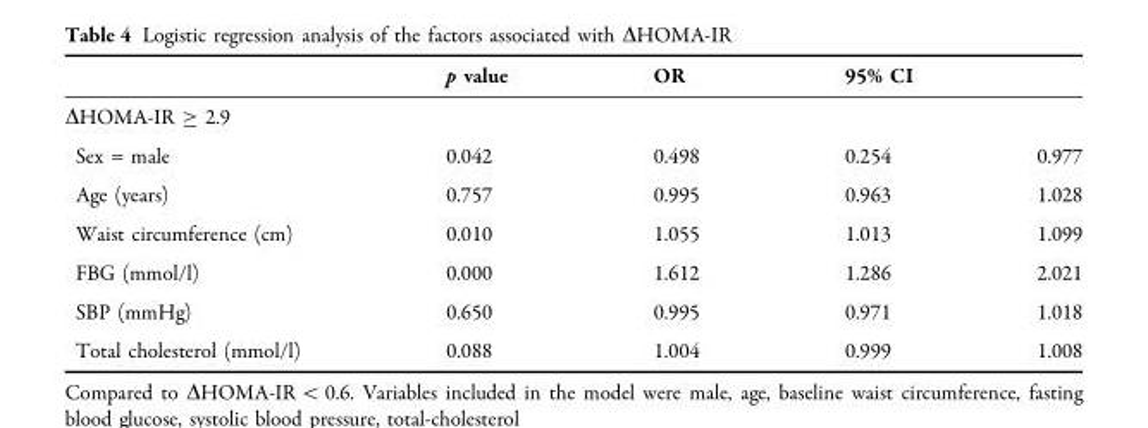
<table><thead><tr><td></td><td>p value</td><td>OR</td><td colspan="2">95% CI</td></tr><tr><td colspan="5">∆HOMA-IR ≥ 2.9</td></tr><tr><td>Sex = male</td><td>0.042</td><td>0.498</td><td>0.254</td><td>0.977</td></tr></thead><tbody><tr><td>Age (years)</td><td>0.757</td><td>0.995</td><td>0.963</td><td>1.028</td></tr><tr><td>Waist circumference (cm)</td><td>0.010</td><td>1.055</td><td>1.013</td><td>1.099</td></tr><tr><td>FBG (mmol/l)</td><td>0.000</td><td>1.612</td><td>1.286</td><td>2.021</td></tr><tr><td>SBP (mmHg)</td><td>0.650</td><td>0.995</td><td>0.971</td><td>1.018</td></tr><tr><td>Total cholesterol (mmol/l)</td><td>0.088</td><td>1.004</td><td>0.999</td><td>1.008</td></tr></tbody></table>